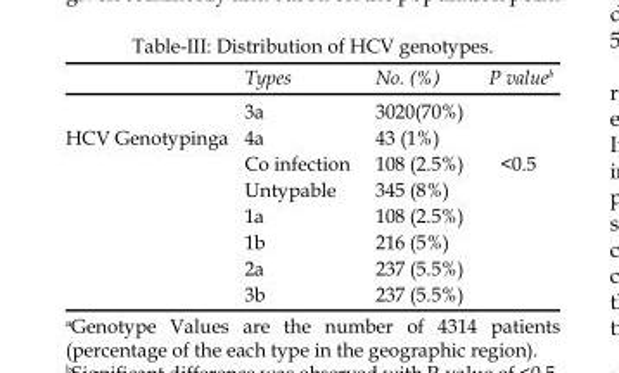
<table><thead><tr><td></td><td>Types</td><td>No. (%)</td><td>P value<sup>b</sup></td></tr></thead><tbody><tr><td></td><td>3<sup>a</sup></td><td>3020(70%)</td><td></td></tr><tr><td rowspan="7">HCV Genotypinga</td><td>4<sup>a</sup></td><td>43 (1%)</td><td></td></tr><tr><td>Co infection</td><td>108 (2.5%)</td><td>&lt;0.5</td></tr><tr><td>Untypable</td><td>345 (8%)</td><td></td></tr><tr><td>1<sup>a</sup></td><td>108 (2.5%)</td><td></td></tr><tr><td>1<sup>b</sup></td><td>216 (5%)</td><td></td></tr><tr><td>2<sup>a</sup></td><td>237 (5.5%)</td><td></td></tr><tr><td>3<sup>b</sup></td><td>237 (5.5%)</td><td></td></tr></tbody></table>